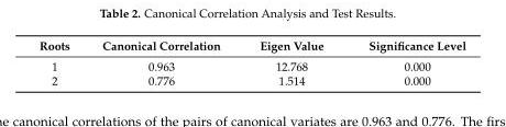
<table><thead><tr><td>Roots</td><td>Canonical Correlation</td><td>Eigen Value</td><td>Significance Level</td></tr></thead><tbody><tr><td>1</td><td>0.963</td><td>12.768</td><td>0.000</td></tr><tr><td>2</td><td>0.776</td><td>1.514</td><td>0.000</td></tr></tbody></table>